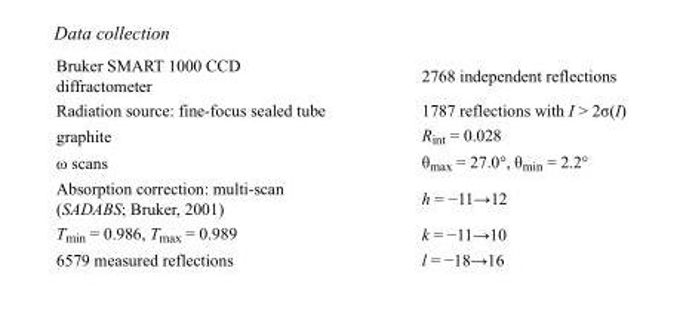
<table><tbody><tr><td>Bruker SMART 1000 CCD diffractometer</td><td>2768 independent reflections</td></tr><tr><td>Radiation source: fine-focus sealed tube</td><td>1787 reflections with I &gt; 2σ(I)</td></tr><tr><td>graphite</td><td>R<sub>int</sub> = 0.028</td></tr><tr><td>ω scans</td><td>θ<sub>max</sub> = 27.0°, θ<sub>min</sub> = 2.2°</td></tr><tr><td>Absorption correction: multi-scan (SADABS; Bruker, 2001)</td><td>h = −11→12</td></tr><tr><td>T<sub>min</sub> = 0.986, T<sub>max</sub> = 0.989</td><td>k = −11→10</td></tr><tr><td>6579 measured reflections</td><td>l = −18→16</td></tr></tbody></table>